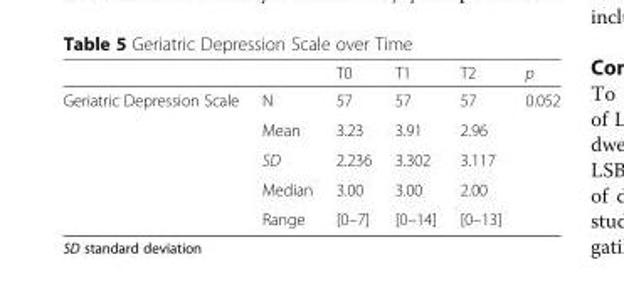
<table><thead><tr><td></td><td></td><td>T0</td><td>T1</td><td>T2</td><td>p</td></tr></thead><tbody><tr><td rowspan="5">Geriatric Depression Scale</td><td>N</td><td>57</td><td>57</td><td>57</td><td>0.052</td></tr><tr><td>Mean</td><td>3.23</td><td>3.91</td><td>2.96</td><td></td></tr><tr><td>SD</td><td>2.236</td><td>3.302</td><td>3.117</td><td></td></tr><tr><td>Median</td><td>3.00</td><td>3.00</td><td>2.00</td><td></td></tr><tr><td>Range</td><td>[0–7]</td><td>[0–14]</td><td>[0–13]</td><td></td></tr></tbody></table>